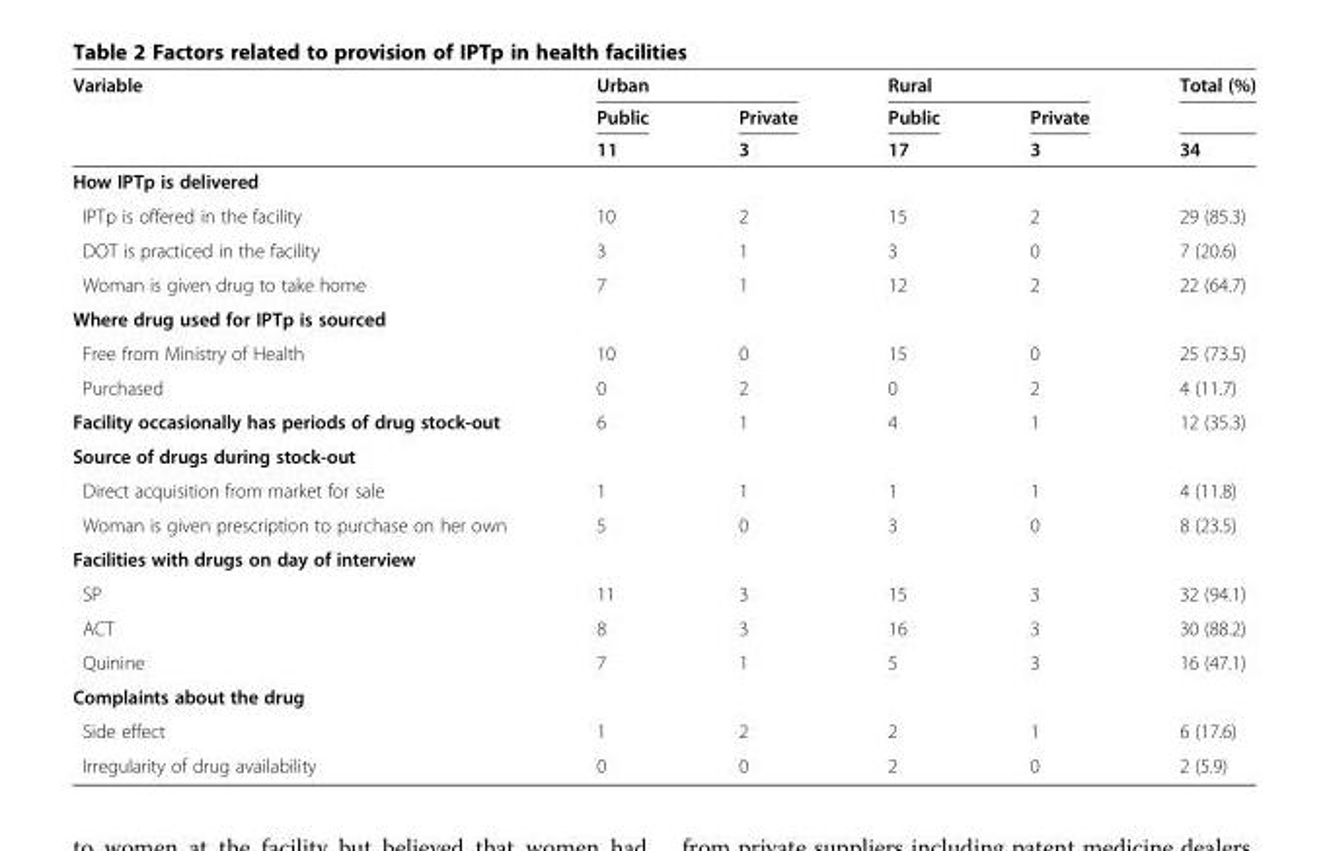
<table><thead><tr><td rowspan="3">Variable</td><td colspan="2">Urban</td><td colspan="2">Rural</td><td rowspan="3">Total (%) 34</td></tr><tr><td rowspan="2">Public 11</td><td rowspan="2">Private 3</td><td rowspan="2">Public 17</td><td rowspan="2">Private 3</td></tr><tr></tr></thead><tbody><tr><td colspan="6">How IPTp is delivered</td></tr><tr><td>IPTp is offered in the facility</td><td>10</td><td>2</td><td>15</td><td>2</td><td>29 (85.3)</td></tr><tr><td>DOT is practiced in the facility</td><td>3</td><td>1</td><td>3</td><td>0</td><td>7 (20.6)</td></tr><tr><td>Woman is given drug to take home</td><td>7</td><td>1</td><td>12</td><td>2</td><td>22 (64.7)</td></tr><tr><td colspan="6">Where drug used for IPTp is sourced</td></tr><tr><td>Free from Ministry of Health</td><td>10</td><td>0</td><td>15</td><td>0</td><td>25 (73.5)</td></tr><tr><td>Purchased</td><td>0</td><td>2</td><td>0</td><td>2</td><td>4 (11.7)</td></tr><tr><td>Facility occasionally has periods of drug stock-out</td><td>6</td><td>1</td><td>4</td><td>1</td><td>12 (35.3)</td></tr><tr><td colspan="6">Source of drugs during stock-out</td></tr><tr><td>Direct acquisition from market for sale</td><td>1</td><td>1</td><td>1</td><td>1</td><td>4 (11.8)</td></tr><tr><td>Woman is given prescription to purchase on her own</td><td>5</td><td>0</td><td>3</td><td>0</td><td>8 (23.5)</td></tr><tr><td colspan="6">Facilities with drugs on day of interview</td></tr><tr><td>SP</td><td>11</td><td>3</td><td>15</td><td>3</td><td>32 (94.1)</td></tr><tr><td>ACT</td><td>8</td><td>3</td><td>16</td><td>3</td><td>30 (88.2)</td></tr><tr><td>Quinine</td><td>7</td><td>1</td><td>5</td><td>3</td><td>16 (47.1)</td></tr><tr><td colspan="6">Complaints about the drug</td></tr><tr><td>Side effect</td><td>1</td><td>2</td><td>2</td><td>1</td><td>6 (17.6)</td></tr><tr><td>Irregularity of drug availability</td><td>0</td><td>0</td><td>2</td><td>0</td><td>2 (5.9)</td></tr></tbody></table>